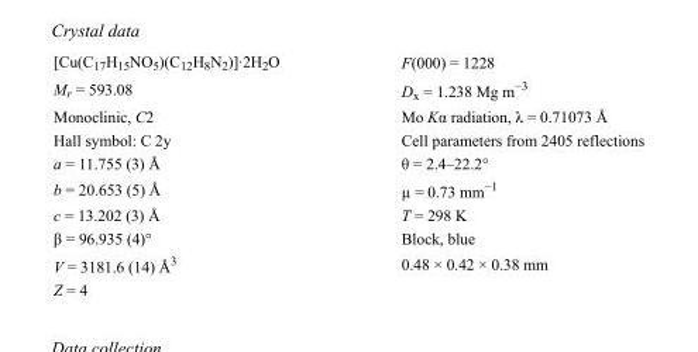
<table><tbody><tr><td>[Cu(C<sub>17</sub>H<sub>15</sub>NO<sub>5</sub>)(C<sub>12</sub>H<sub>8</sub>N<sub>2</sub>)]·2H<sub>2</sub>O</td><td>F(000) = 1228</td></tr><tr><td>M<sub>r</sub> = 593.08</td><td>D<sub>x</sub> = 1.238 Mg m<sup>−3</sup></td></tr><tr><td>Monoclinic, C2</td><td>Mo Kα radiation, λ = 0.71073 Å</td></tr><tr><td>Hall symbol: C 2y</td><td>Cell parameters from 2405 reflections</td></tr><tr><td>a = 11.755 (3) Å</td><td>θ = 2.4–22.2°</td></tr><tr><td>b = 20.653 (5) Å</td><td>µ = 0.73 mm<sup>−1</sup></td></tr><tr><td>c = 13.202 (3) Å</td><td>T = 298 K</td></tr><tr><td>β = 96.935 (4)°</td><td>Block, blue</td></tr><tr><td>V = 3181.6 (14) Å<sup>3</sup></td><td>0.48 × 0.42 × 0.38 mm</td></tr><tr><td>Z = 4</td><td></td></tr></tbody></table>